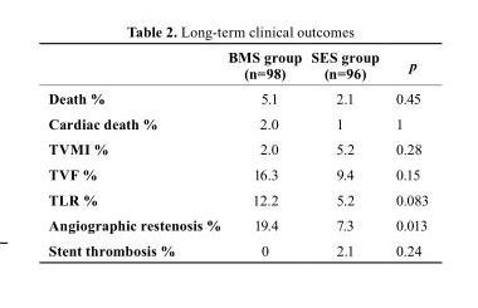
<table><thead><tr><td></td><td>BMS group (n=98)</td><td>SES group (n=96)</td><td>p</td></tr></thead><tbody><tr><td>Death %</td><td>5.1</td><td>2.1</td><td>0.45</td></tr><tr><td>Cardiac death %</td><td>2.0</td><td>1</td><td>1</td></tr><tr><td>TVMI %</td><td>2.0</td><td>5.2</td><td>0.28</td></tr><tr><td>TVF %</td><td>16.3</td><td>9.4</td><td>0.15</td></tr><tr><td>TLR %</td><td>12.2</td><td>5.2</td><td>0.083</td></tr><tr><td>Angiographic restenosis %</td><td>19.4</td><td>7.3</td><td>0.013</td></tr><tr><td>Stent thrombosis %</td><td>0</td><td>2.1</td><td>0.24</td></tr></tbody></table>